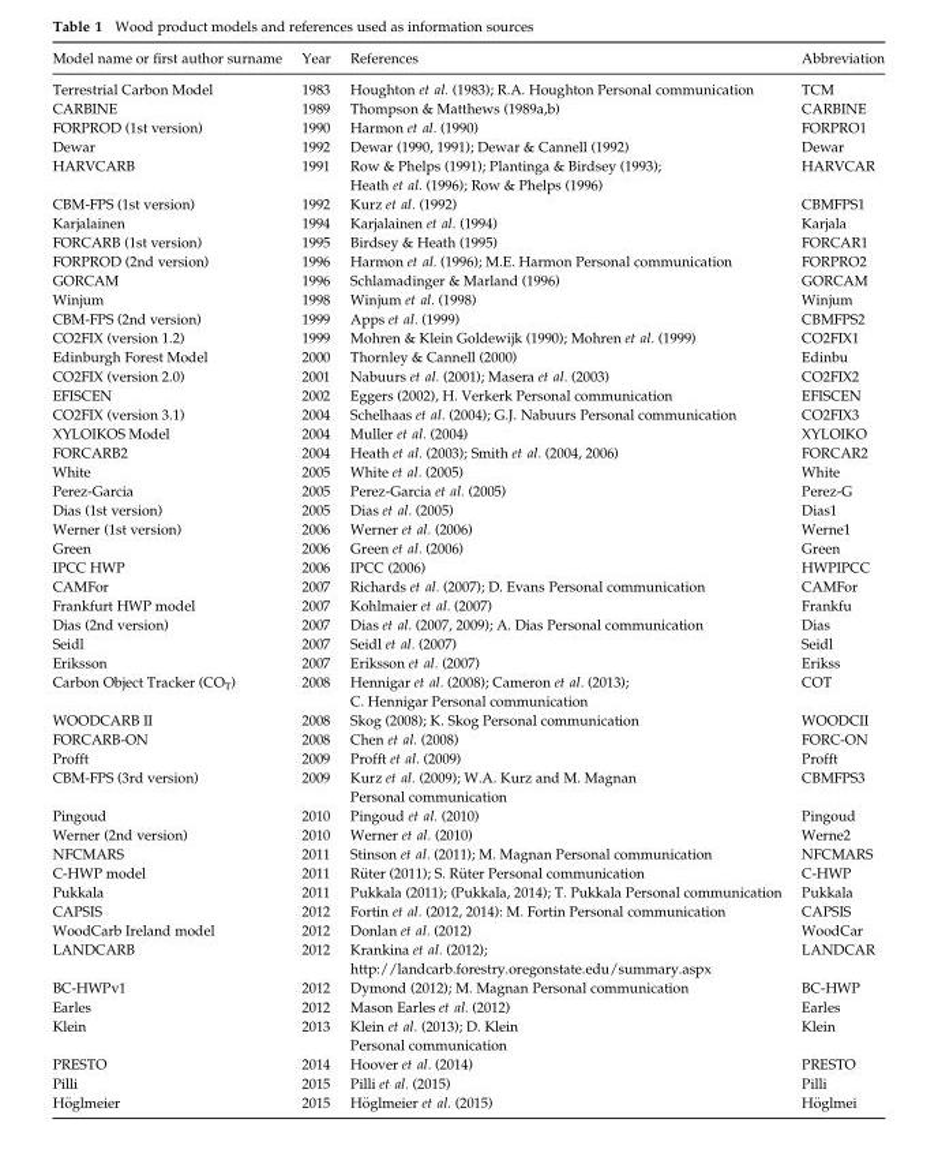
<table><thead><tr><td>Model name or first author surname</td><td>Year</td><td>References</td><td>Abbreviation</td></tr></thead><tbody><tr><td>Terrestrial Carbon Model</td><td>1983</td><td>Houghton et al. (1983); R.A. Houghton Personal communication</td><td>TCM</td></tr><tr><td>CARBINE</td><td>1989</td><td>Thompson &amp; Matthews (1989a,b)</td><td>CARBINE</td></tr><tr><td>FORPROD (1st version)</td><td>1990</td><td>Harmon et al. (1990)</td><td>FORPRO1</td></tr><tr><td>Dewar</td><td>1992</td><td>Dewar (1990, 1991); Dewar &amp; Cannell (1992)</td><td>Dewar</td></tr><tr><td>HARVCARB</td><td>1991</td><td>Row &amp; Phelps (1991); Plantinga &amp; Birdsey (1993); Heath et al. (1996); Row &amp; Phelps (1996)</td><td>HARVCAR</td></tr><tr><td>CBM-FPS (1st version)</td><td>1992</td><td>Kurz et al. (1992)</td><td>CBMFPS1</td></tr><tr><td>Karjalainen</td><td>1994</td><td>Karjalainen et al. (1994)</td><td>Karjala</td></tr><tr><td>FORCARB (1st version)</td><td>1995</td><td>Birdsey &amp; Heath (1995)</td><td>FORCAR1</td></tr><tr><td>FORPROD (2nd version)</td><td>1996</td><td>Harmon et al. (1996); M.E. Harmon Personal communication</td><td>FORPRO2</td></tr><tr><td>GORCAM</td><td>1996</td><td>Schlamadinger &amp; Marland (1996)</td><td>GORCAM</td></tr><tr><td>Winjum</td><td>1998</td><td>Winjum et al. (1998)</td><td>Winjum</td></tr><tr><td>CBM-FPS (2nd version)</td><td>1999</td><td>Apps et al. (1999)</td><td>CBMFPS2</td></tr><tr><td>CO2FIX (version 1.2)</td><td>1999</td><td>Mohren &amp; Klein Goldewijk (1990); Mohren et al. (1999)</td><td>CO2FIX1</td></tr><tr><td>Edinburgh Forest Model</td><td>2000</td><td>Thornley &amp; Cannell (2000)</td><td>Edinbu</td></tr><tr><td>CO2FIX (version 2.0)</td><td>2001</td><td>Nabuurs et al. (2001); Masera et al. (2003)</td><td>CO2FIX2</td></tr><tr><td>EFISCEN</td><td>2002</td><td>Eggers (2002), H. Verkerk Personal communication</td><td>EFISCEN</td></tr><tr><td>CO2FIX (version 3.1)</td><td>2004</td><td>Schelhaas et al. (2004); G.J. Nabuurs Personal communication</td><td>CO2FIX3</td></tr><tr><td>XYLOIKOS Model</td><td>2004</td><td>Muller et al. (2004)</td><td>XYLOIKO</td></tr><tr><td>FORCARB2</td><td>2004</td><td>Heath et al. (2003); Smith et al. (2004, 2006)</td><td>FORCAR2</td></tr><tr><td>White</td><td>2005</td><td>White et al. (2005)</td><td>White</td></tr><tr><td>Perez-Garcia</td><td>2005</td><td>Perez-Garcia et al. (2005)</td><td>Perez-G</td></tr><tr><td>Dias (1st version)</td><td>2005</td><td>Dias et al. (2005)</td><td>Dias1</td></tr><tr><td>Werner (1st version)</td><td>2006</td><td>Werner et al. (2006)</td><td>Werne1</td></tr><tr><td>Green</td><td>2006</td><td>Green et al. (2006)</td><td>Green</td></tr><tr><td>IPCC HWP</td><td>2006</td><td>IPCC (2006)</td><td>HWPIPCC</td></tr><tr><td>CAMFor</td><td>2007</td><td>Richards et al. (2007); D. Evans Personal communication</td><td>CAMFor</td></tr><tr><td>Frankfurt HWP model</td><td>2007</td><td>Kohlmaier et al. (2007)</td><td>Frankfu</td></tr><tr><td>Dias (2nd version)</td><td>2007</td><td>Dias et al. (2007, 2009); A. Dias Personal communication</td><td>Dias</td></tr><tr><td>Seidl</td><td>2007</td><td>Seidl et al. (2007)</td><td>Seidl</td></tr><tr><td>Eriksson</td><td>2007</td><td>Eriksson et al. (2007)</td><td>Erikss</td></tr><tr><td>Carbon Object Tracker (CO<sub>T</sub>)</td><td>2008</td><td>Hennigar et al. (2008); Cameron et al. (2013); C. Hennigar Personal communication</td><td>COT</td></tr><tr><td>WOODCARB II</td><td>2008</td><td>Skog (2008); K. Skog Personal communication</td><td>WOODCII</td></tr><tr><td>FORCARB-ON</td><td>2008</td><td>Chen et al. (2008)</td><td>FORC-ON</td></tr><tr><td>Profft</td><td>2009</td><td>Profft et al. (2009)</td><td>Profft</td></tr><tr><td>CBM-FPS (3rd version)</td><td>2009</td><td>Kurz et al. (2009); W.A. Kurz and M. Magnan Personal communication</td><td>CBMFPS3</td></tr><tr><td>Pingoud</td><td>2010</td><td>Pingoud et al. (2010)</td><td>Pingoud</td></tr><tr><td>Werner (2nd version)</td><td>2010</td><td>Werner et al. (2010)</td><td>Werne2</td></tr><tr><td>NFCMARS</td><td>2011</td><td>Stinson et al. (2011); M. Magnan Personal communication</td><td>NFCMARS</td></tr><tr><td>C-HWP model</td><td>2011</td><td>R€uter (2011); S. R€uter Personal communication</td><td>C-HWP</td></tr><tr><td>Pukkala</td><td>2011</td><td>Pukkala (2011); (Pukkala, 2014); T. Pukkala Personal communication</td><td>Pukkala</td></tr><tr><td>CAPSIS</td><td>2012</td><td>Fortin et al. (2012, 2014): M. Fortin Personal communication</td><td>CAPSIS</td></tr><tr><td>WoodCarb Ireland model</td><td>2012</td><td>Donlan et al. (2012)</td><td>WoodCar</td></tr><tr><td>LANDCARB</td><td>2012</td><td>Krankina et al. (2012); http://landcarb.forestry.oregonstate.edu/summary.aspx</td><td>LANDCAR</td></tr><tr><td>BC-HWPv1</td><td>2012</td><td>Dymond (2012); M. Magnan Personal communication</td><td>BC-HWP</td></tr><tr><td>Earles</td><td>2012</td><td>Mason Earles et al. (2012)</td><td>Earles</td></tr><tr><td>Klein</td><td>2013</td><td>Klein et al. (2013); D. Klein Personal communication</td><td>Klein</td></tr><tr><td>PRESTO</td><td>2014</td><td>Hoover et al. (2014)</td><td>PRESTO</td></tr><tr><td>Pilli</td><td>2015</td><td>Pilli et al. (2015)</td><td>Pilli</td></tr><tr><td>H€oglmeier</td><td>2015</td><td>H€oglmeier et al. (2015)</td><td>H€oglmei</td></tr></tbody></table>